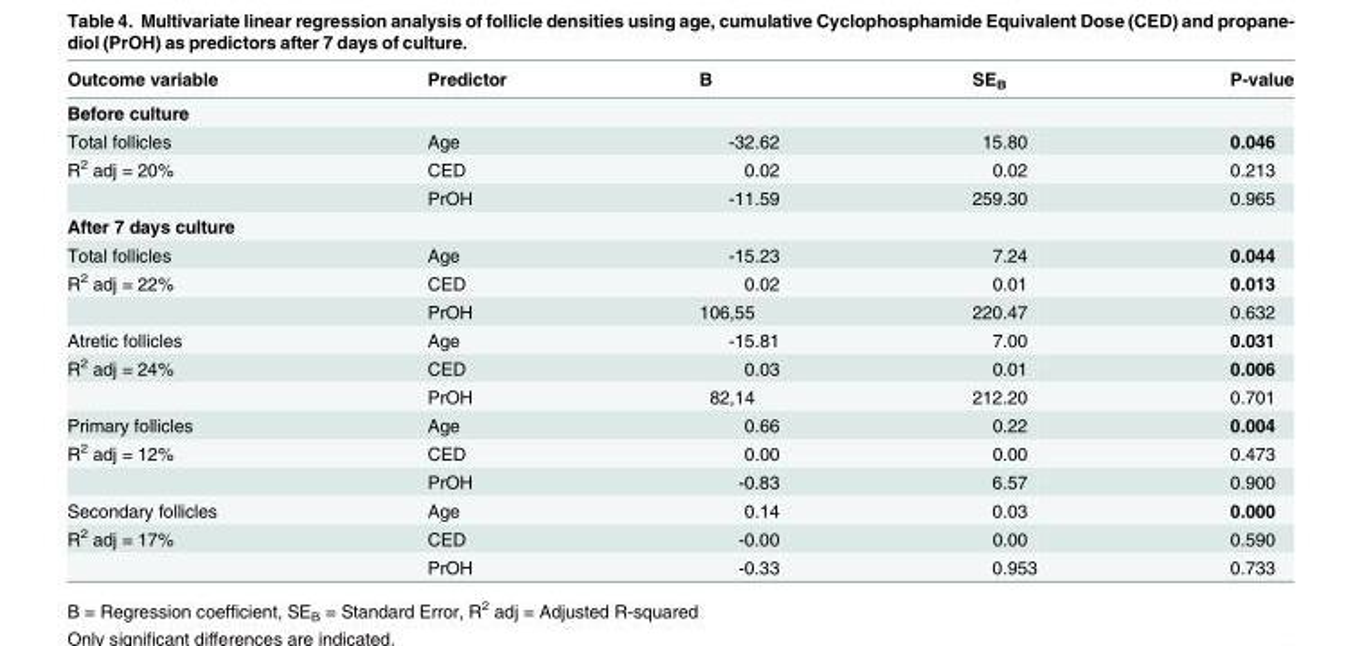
<table><thead><tr><td>Outcome variable</td><td>Predictor</td><td>B</td><td>SE<sub>B</sub></td><td>P-value</td></tr></thead><tbody><tr><td colspan="5">Before culture</td></tr><tr><td>Total follicles</td><td>Age</td><td>-32.62</td><td>15.80</td><td>0.046</td></tr><tr><td rowspan="2">R<sup>2</sup> adj = 20%</td><td>CED</td><td>0.02</td><td>0.02</td><td>0.213</td></tr><tr><td>PrOH</td><td>-11.59</td><td>259.30</td><td>0.965</td></tr><tr><td colspan="5">After 7 days culture</td></tr><tr><td>Total follicles</td><td>Age</td><td>-15.23</td><td>7.24</td><td>0.044</td></tr><tr><td rowspan="2">R<sup>2</sup> adj = 22%</td><td>CED</td><td>0.02</td><td>0.01</td><td>0.013</td></tr><tr><td>PrOH</td><td>106,55</td><td>220.47</td><td>0.632</td></tr><tr><td>Atretic follicles</td><td>Age</td><td>-15.81</td><td>7.00</td><td>0.031</td></tr><tr><td rowspan="2">R<sup>2</sup> adj = 24%</td><td>CED</td><td>0.03</td><td>0.01</td><td>0.006</td></tr><tr><td>PrOH</td><td>82,14</td><td>212.20</td><td>0.701</td></tr><tr><td>Primary follicles</td><td>Age</td><td>0.66</td><td>0.22</td><td>0.004</td></tr><tr><td rowspan="2">R<sup>2</sup> adj = 12%</td><td>CED</td><td>0.00</td><td>0.00</td><td>0.473</td></tr><tr><td>PrOH</td><td>-0.83</td><td>6.57</td><td>0.900</td></tr><tr><td>Secondary follicles</td><td>Age</td><td>0.14</td><td>0.03</td><td>0.000</td></tr><tr><td rowspan="2">R<sup>2</sup> adj = 17%</td><td>CED</td><td>-0.00</td><td>0.00</td><td>0.590</td></tr><tr><td>PrOH</td><td>-0.33</td><td>0.953</td><td>0.733</td></tr></tbody></table>